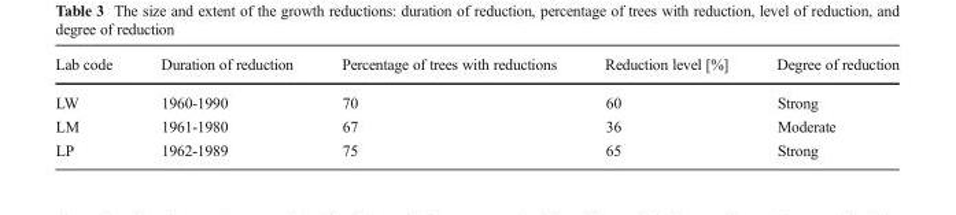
<table><thead><tr><td>Lab code</td><td>Duration of reduction</td><td>Percentage of trees with reductions</td><td>Reduction level [%]</td><td>Degree of reduction</td></tr></thead><tbody><tr><td>LW</td><td>1960-1990</td><td>70</td><td>60</td><td>Strong</td></tr><tr><td>LM</td><td>1961-1980</td><td>67</td><td>36</td><td>Moderate</td></tr><tr><td>LP</td><td>1962-1989</td><td>75</td><td>65</td><td>Strong</td></tr></tbody></table>